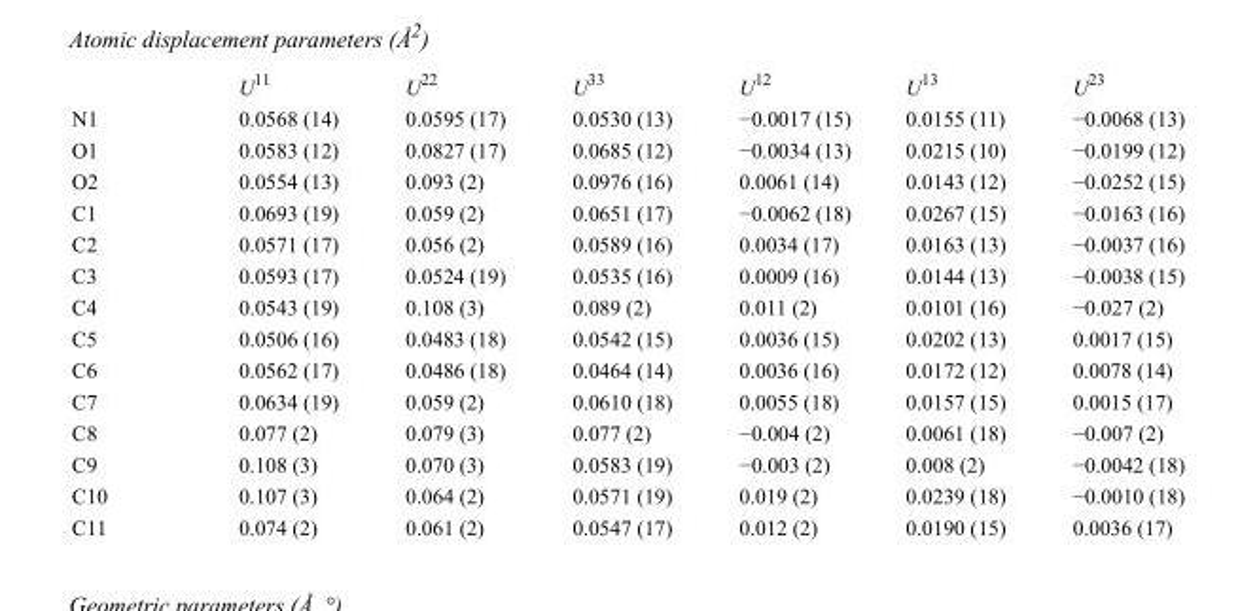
<table><thead><tr><td></td><td>U<sup>11</sup></td><td>U<sup>22</sup></td><td>U<sup>33</sup></td><td>U<sup>12</sup></td><td>U<sup>13</sup></td><td>U<sup>23</sup></td></tr></thead><tbody><tr><td>N1</td><td>0.0568 (14)</td><td>0.0595 (17)</td><td>0.0530 (13)</td><td>−0.0017 (15)</td><td>0.0155 (11)</td><td>−0.0068 (13)</td></tr><tr><td>O1</td><td>0.0583 (12)</td><td>0.0827 (17)</td><td>0.0685 (12)</td><td>−0.0034 (13)</td><td>0.0215 (10)</td><td>−0.0199 (12)</td></tr><tr><td>O2</td><td>0.0554 (13)</td><td>0.093 (2)</td><td>0.0976 (16)</td><td>0.0061 (14)</td><td>0.0143 (12)</td><td>−0.0252 (15)</td></tr><tr><td>C1</td><td>0.0693 (19)</td><td>0.059 (2)</td><td>0.0651 (17)</td><td>−0.0062 (18)</td><td>0.0267 (15)</td><td>−0.0163 (16)</td></tr><tr><td>C2</td><td>0.0571 (17)</td><td>0.056 (2)</td><td>0.0589 (16)</td><td>0.0034 (17)</td><td>0.0163 (13)</td><td>−0.0037 (16)</td></tr><tr><td>C3</td><td>0.0593 (17)</td><td>0.0524 (19)</td><td>0.0535 (16)</td><td>0.0009 (16)</td><td>0.0144 (13)</td><td>−0.0038 (15)</td></tr><tr><td>C4</td><td>0.0543 (19)</td><td>0.108 (3)</td><td>0.089 (2)</td><td>0.011 (2)</td><td>0.0101 (16)</td><td>−0.027 (2)</td></tr><tr><td>C5</td><td>0.0506 (16)</td><td>0.0483 (18)</td><td>0.0542 (15)</td><td>0.0036 (15)</td><td>0.0202 (13)</td><td>0.0017 (15)</td></tr><tr><td>C6</td><td>0.0562 (17)</td><td>0.0486 (18)</td><td>0.0464 (14)</td><td>0.0036 (16)</td><td>0.0172 (12)</td><td>0.0078 (14)</td></tr><tr><td>C7</td><td>0.0634 (19)</td><td>0.059 (2)</td><td>0.0610 (18)</td><td>0.0055 (18)</td><td>0.0157 (15)</td><td>0.0015 (17)</td></tr><tr><td>C8</td><td>0.077 (2)</td><td>0.079 (3)</td><td>0.077 (2)</td><td>−0.004 (2)</td><td>0.0061 (18)</td><td>−0.007 (2)</td></tr><tr><td>C9</td><td>0.108 (3)</td><td>0.070 (3)</td><td>0.0583 (19)</td><td>−0.003 (2)</td><td>0.008 (2)</td><td>−0.0042 (18)</td></tr><tr><td>C10</td><td>0.107 (3)</td><td>0.064 (2)</td><td>0.0571 (19)</td><td>0.019 (2)</td><td>0.0239 (18)</td><td>−0.0010 (18)</td></tr><tr><td>C11</td><td>0.074 (2)</td><td>0.061 (2)</td><td>0.0547 (17)</td><td>0.012 (2)</td><td>0.0190 (15)</td><td>0.0036 (17)</td></tr></tbody></table>